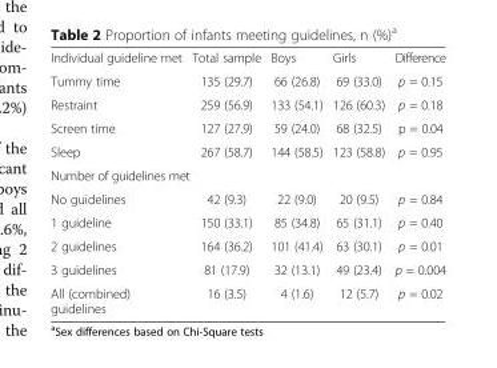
<table><tbody><tr><td>Individual guideline met</td><td>Total sample</td><td>Boys</td><td>Girls</td><td>Difference</td></tr><tr><td>Tummy time</td><td>135 (29.7)</td><td>66 (26.8)</td><td>69 (33.0)</td><td>p = 0.15</td></tr><tr><td>Restraint</td><td>259 (56.9)</td><td>133 (54.1)</td><td>126 (60.3)</td><td>p = 0.18</td></tr><tr><td>Screen time</td><td>127 (27.9)</td><td>59 (24.0)</td><td>68 (32.5)</td><td>p = 0.04</td></tr><tr><td>Sleep</td><td>267 (58.7)</td><td>144 (58.5)</td><td>123 (58.8)</td><td>p = 0.95</td></tr><tr><td colspan="5">Number of guidelines met</td></tr><tr><td>No guidelines</td><td>42 (9.3)</td><td>22 (9.0)</td><td>20 (9.5)</td><td>p = 0.84</td></tr><tr><td>1 guideline</td><td>150 (33.1)</td><td>85 (34.8)</td><td>65 (31.1)</td><td>p = 0.40</td></tr><tr><td>2 guidelines</td><td>164 (36.2)</td><td>101 (41.4)</td><td>63 (30.1)</td><td>p = 0.01</td></tr><tr><td>3 guidelines</td><td>81 (17.9)</td><td>32 (13.1)</td><td>49 (23.4)</td><td>p = 0.004</td></tr><tr><td>All (combined) guidelines</td><td>16 (3.5)</td><td>4 (1.6)</td><td>12 (5.7)</td><td>p = 0.02</td></tr></tbody></table>